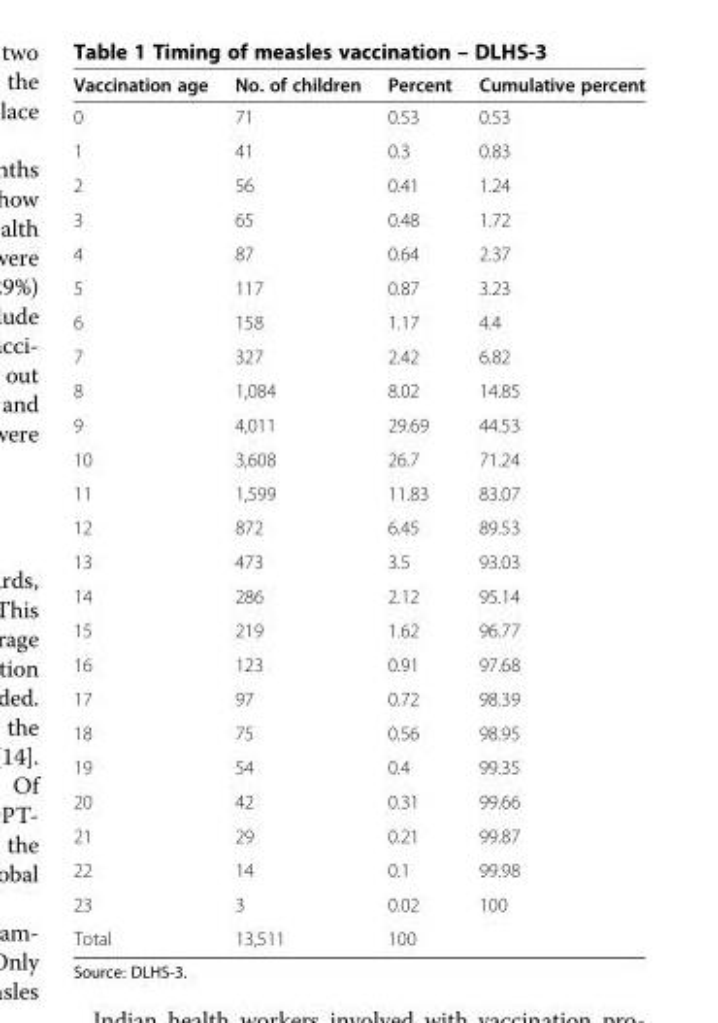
<table><thead><tr><td>Vaccination age</td><td>No. of children</td><td>Percent</td><td>Cumulative percent</td></tr></thead><tbody><tr><td>0</td><td>71</td><td>0.53</td><td>0.53</td></tr><tr><td>1</td><td>41</td><td>0.3</td><td>0.83</td></tr><tr><td>2</td><td>56</td><td>0.41</td><td>1.24</td></tr><tr><td>3</td><td>65</td><td>0.48</td><td>1.72</td></tr><tr><td>4</td><td>87</td><td>0.64</td><td>2.37</td></tr><tr><td>5</td><td>117</td><td>0.87</td><td>3.23</td></tr><tr><td>6</td><td>158</td><td>1.17</td><td>4.4</td></tr><tr><td>7</td><td>327</td><td>2.42</td><td>6.82</td></tr><tr><td>8</td><td>1,084</td><td>8.02</td><td>14.85</td></tr><tr><td>9</td><td>4,011</td><td>29.69</td><td>44.53</td></tr><tr><td>10</td><td>3,608</td><td>26.7</td><td>71.24</td></tr><tr><td>11</td><td>1,599</td><td>11.83</td><td>83.07</td></tr><tr><td>12</td><td>872</td><td>6.45</td><td>89.53</td></tr><tr><td>13</td><td>473</td><td>3.5</td><td>93.03</td></tr><tr><td>14</td><td>286</td><td>2.12</td><td>95.14</td></tr><tr><td>15</td><td>219</td><td>1.62</td><td>96.77</td></tr><tr><td>16</td><td>123</td><td>0.91</td><td>97.68</td></tr><tr><td>17</td><td>97</td><td>0.72</td><td>98.39</td></tr><tr><td>18</td><td>75</td><td>0.56</td><td>98.95</td></tr><tr><td>19</td><td>54</td><td>0.4</td><td>99.35</td></tr><tr><td>20</td><td>42</td><td>0.31</td><td>99.66</td></tr><tr><td>21</td><td>29</td><td>0.21</td><td>99.87</td></tr><tr><td>22</td><td>14</td><td>0.1</td><td>99.98</td></tr><tr><td>23</td><td>3</td><td>0.02</td><td>100</td></tr><tr><td>Total</td><td>13,511</td><td>100</td><td></td></tr></tbody></table>